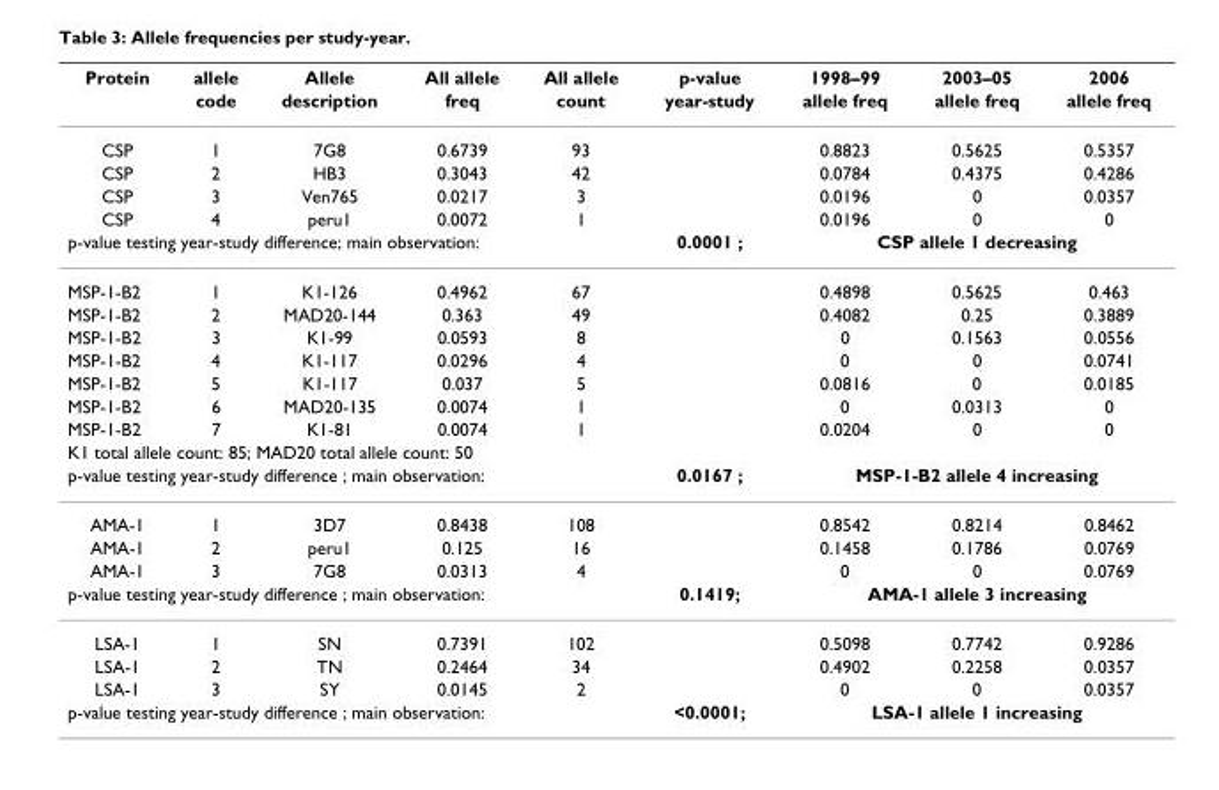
<table><thead><tr><td rowspan="2">Protein</td><td rowspan="2">allele code</td><td rowspan="2">Allele description</td><td rowspan="2">All allele freq</td><td rowspan="2">All allele count</td><td rowspan="2">p-value year-study</td><td rowspan="2">1998–99 allele freq</td><td rowspan="2">2003–05 allele freq</td><td rowspan="2">2006 allele freq</td></tr><tr></tr></thead><tbody><tr><td>CSP</td><td>1</td><td>7G8</td><td>0.6739</td><td>93</td><td></td><td>0.8823</td><td>0.5625</td><td>0.5357</td></tr><tr><td>CSP</td><td>2</td><td>HB3</td><td>0.3043</td><td>42</td><td></td><td>0.0784</td><td>0.4375</td><td>0.4286</td></tr><tr><td>CSP</td><td>3</td><td>Ven765</td><td>0.0217</td><td>3</td><td></td><td>0.0196</td><td>0</td><td>0.0357</td></tr><tr><td>CSP</td><td>4</td><td>peru1</td><td>0.0072</td><td>1</td><td></td><td>0.0196</td><td>0</td><td>0</td></tr><tr><td colspan="5">p-value testing year-study difference; main observation:</td><td>0.0001 ;</td><td colspan="3">CSP allele 1 decreasing</td></tr><tr><td>MSP-1-B2</td><td>1</td><td>K1-126</td><td>0.4962</td><td>67</td><td></td><td>0.4898</td><td>0.5625</td><td>0.463</td></tr><tr><td>MSP-1-B2</td><td>2</td><td>MAD20-144</td><td>0.363</td><td>49</td><td></td><td>0.4082</td><td>0.25</td><td>0.3889</td></tr><tr><td>MSP-1-B2</td><td>3</td><td>K1-99</td><td>0.0593</td><td>8</td><td></td><td>0</td><td>0.1563</td><td>0.0556</td></tr><tr><td>MSP-1-B2</td><td>4</td><td>K1-117</td><td>0.0296</td><td>4</td><td></td><td>0</td><td>0</td><td>0.0741</td></tr><tr><td>MSP-1-B2</td><td>5</td><td>K1-117</td><td>0.037</td><td>5</td><td></td><td>0.0816</td><td>0</td><td>0.0185</td></tr><tr><td>MSP-1-B2</td><td>6</td><td>MAD20-135</td><td>0.0074</td><td>1</td><td></td><td>0</td><td>0.0313</td><td>0</td></tr><tr><td>MSP-1-B2</td><td>7</td><td>K1-81</td><td>0.0074</td><td>1</td><td></td><td>0.0204</td><td>0</td><td>0</td></tr><tr><td colspan="9">K1 total allele count: 85; MAD20 total allele count: 50</td></tr><tr><td colspan="5">p-value testing year-study difference ; main observation:</td><td>0.0167 ;</td><td colspan="3">MSP-1-B2 allele 4 increasing</td></tr><tr><td>AMA-1</td><td>1</td><td>3D7</td><td>0.8438</td><td>108</td><td></td><td>0.8542</td><td>0.8214</td><td>0.8462</td></tr><tr><td>AMA-1</td><td>2</td><td>peru1</td><td>0.125</td><td>16</td><td></td><td>0.1458</td><td>0.1786</td><td>0.0769</td></tr><tr><td>AMA-1</td><td>3</td><td>7G8</td><td>0.0313</td><td>4</td><td></td><td>0</td><td>0</td><td>0.0769</td></tr><tr><td colspan="5">p-value testing year-study difference ; main observation:</td><td>0.1419;</td><td colspan="3">AMA-1 allele 3 increasing</td></tr><tr><td>LSA-1</td><td>1</td><td>SN</td><td>0.7391</td><td>102</td><td></td><td>0.5098</td><td>0.7742</td><td>0.9286</td></tr><tr><td>LSA-1</td><td>2</td><td>TN</td><td>0.2464</td><td>34</td><td></td><td>0.4902</td><td>0.2258</td><td>0.0357</td></tr><tr><td>LSA-1</td><td>3</td><td>SY</td><td>0.0145</td><td>2</td><td></td><td>0</td><td>0</td><td>0.0357</td></tr><tr><td colspan="5">p-value testing year-study difference ; main observation:</td><td>&lt;0.0001;</td><td colspan="3">LSA-1 allele 1 increasing</td></tr></tbody></table>